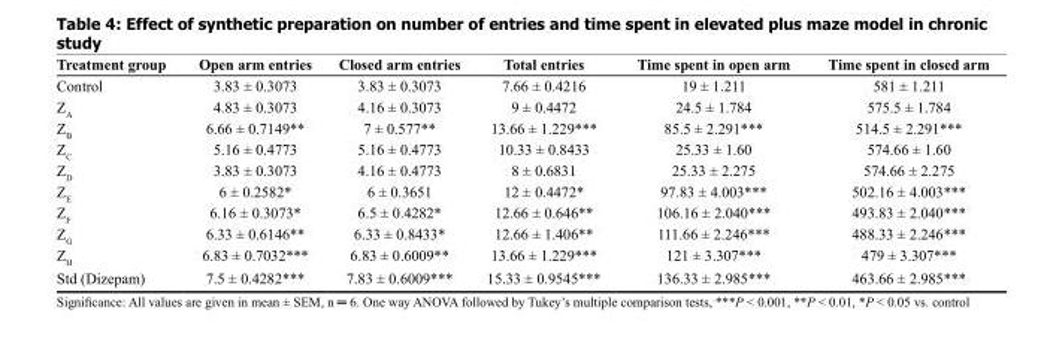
<table><thead><tr><td>Treatment group</td><td>Open arm entries</td><td>Closed arm entries</td><td>Total entries</td><td>Time spent in open arm</td><td>Time spent in closed arm</td></tr></thead><tbody><tr><td>Control</td><td>3.83 ± 0.3073</td><td>3.83 ± 0.3073</td><td>7.66 ± 0.4216</td><td>19 ± 1.211</td><td>581 ± 1.211</td></tr><tr><td>Z<sub>A</sub></td><td>4.83 ± 0.3073</td><td>4.16 ± 0.3073</td><td>9 ± 0.4472</td><td>24.5 ± 1.784</td><td>575.5 ± 1.784</td></tr><tr><td>Z<sub>B</sub></td><td>6.66 ± 0.7149**</td><td>7 ± 0.577**</td><td>13.66 ± 1.229***</td><td>85.5 ± 2.291***</td><td>514.5 ± 2.291***</td></tr><tr><td>Z<sub>C</sub></td><td>5.16 ± 0.4773</td><td>5.16 ± 0.4773</td><td>10.33 ± 0.8433</td><td>25.33 ± 1.60</td><td>574.66 ± 1.60</td></tr><tr><td>Z<sub>D</sub></td><td>3.83 ± 0.3073</td><td>4.16 ± 0.4773</td><td>8 ± 0.6831</td><td>25.33 ± 2.275</td><td>574.66 ± 2.275</td></tr><tr><td>Z<sub>E</sub></td><td>6 ± 0.2582*</td><td>6 ± 0.3651</td><td>12 ± 0.4472*</td><td>97.83 ± 4.003***</td><td>502.16 ± 4.003***</td></tr><tr><td>Z<sub>F</sub></td><td>6.16 ± 0.3073*</td><td>6.5 ± 0.4282*</td><td>12.66 ± 0.646**</td><td>106.16 ± 2.040***</td><td>493.83 ± 2.040***</td></tr><tr><td>Z<sub>G</sub></td><td>6.33 ± 0.6146**</td><td>6.33 ± 0.8433*</td><td>12.66 ± 1.406**</td><td>111.66 ± 2.246***</td><td>488.33 ± 2.246***</td></tr><tr><td>Z<sub>H</sub></td><td>6.83 ± 0.7032***</td><td>6.83 ± 0.6009**</td><td>13.66 ± 1.229***</td><td>121 ± 3.307***</td><td>479 ± 3.307***</td></tr><tr><td>Std (Dizepam)</td><td>7.5 ± 0.4282***</td><td>7.83 ± 0.6009***</td><td>15.33 ± 0.9545***</td><td>136.33 ± 2.985***</td><td>463.66 ± 2.985***</td></tr></tbody></table>